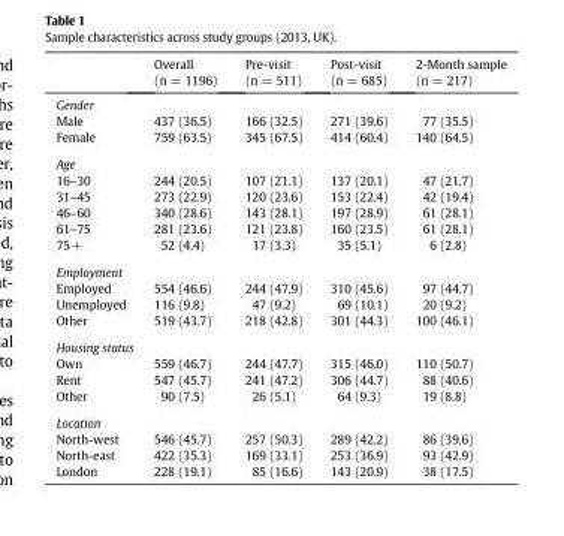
<table><thead><tr><td></td><td>Overall (n = 1196)</td><td>Pre-visit (n = 511)</td><td>Post-visit (n = 685)</td><td>2-Month sample (n = 217)</td></tr></thead><tbody><tr><td colspan="5">Gender</td></tr><tr><td>Male</td><td>437 (36.5)</td><td>166 (32.5)</td><td>271 (39.6)</td><td>77 (35.5)</td></tr><tr><td>Female</td><td>759 (63.5)</td><td>345 (67.5)</td><td>414 (60.4)</td><td>140 (64.5)</td></tr><tr><td colspan="5">Age</td></tr><tr><td>16–30</td><td>244 (20.5)</td><td>107 (21.1)</td><td>137 (20.1)</td><td>47 (21.7)</td></tr><tr><td>31–45</td><td>273 (22.9)</td><td>120 (23.6)</td><td>153 (22.4)</td><td>42 (19.4)</td></tr><tr><td>46–60</td><td>340 (28.6)</td><td>143 (28.1)</td><td>197 (28.9)</td><td>61 (28.1)</td></tr><tr><td>61–75</td><td>281 (23.6)</td><td>121 (23.8)</td><td>160 (23.5)</td><td>61 (28.1)</td></tr><tr><td>75+</td><td>52 (4.4)</td><td>17 (3.3)</td><td>35 (5.1)</td><td>6 (2.8)</td></tr><tr><td colspan="5">Employment</td></tr><tr><td>Employed</td><td>554 (46.6)</td><td>244 (47.9)</td><td>310 (45.6)</td><td>97 (44.7)</td></tr><tr><td>Unemployed</td><td>116 (9.8)</td><td>47 (9.2)</td><td>69 (10.1)</td><td>20 (9.2)</td></tr><tr><td>Other</td><td>519 (43.7)</td><td>218 (42.8)</td><td>301 (44.3)</td><td>100 (46.1)</td></tr><tr><td colspan="5">Housing status</td></tr><tr><td>Own</td><td>559 (46.7)</td><td>244 (47.7)</td><td>315 (46.0)</td><td>110 (50.7)</td></tr><tr><td>Rent</td><td>547 (45.7)</td><td>241 (47.2)</td><td>306 (44.7)</td><td>88 (40.6)</td></tr><tr><td>Other</td><td>90 (7.5)</td><td>26 (5.1)</td><td>64 (9.3)</td><td>19 (8.8)</td></tr><tr><td colspan="5">Location</td></tr><tr><td>North-west</td><td>546 (45.7)</td><td>257 (50.3)</td><td>289 (42.2)</td><td>86 (39.6)</td></tr><tr><td>North-east</td><td>422 (35.3)</td><td>169 (33.1)</td><td>253 (36.9)</td><td>93 (42.9)</td></tr><tr><td>London</td><td>228 (19.1)</td><td>85 (16.6)</td><td>143 (20.9)</td><td>38 (17.5)</td></tr></tbody></table>